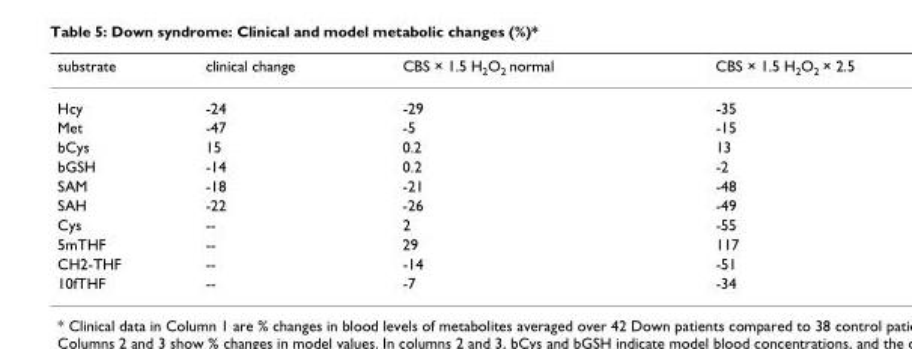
<table><thead><tr><td>substrate</td><td>clinical change</td><td>CBS × 1.5 H<sub>2</sub>O<sub>2</sub> normal</td><td>CBS × 1.5 H<sub>2</sub>O<sub>2</sub> × 2.5</td></tr></thead><tbody><tr><td>Hcy</td><td>-24</td><td>-29</td><td>-35</td></tr><tr><td>Met</td><td>-47</td><td>-5</td><td>-15</td></tr><tr><td>bCys</td><td>15</td><td>0.2</td><td>13</td></tr><tr><td>bGSH</td><td>-14</td><td>0.2</td><td>-2</td></tr><tr><td>SAM</td><td>-18</td><td>-21</td><td>-48</td></tr><tr><td>SAH</td><td>-22</td><td>-26</td><td>-49</td></tr><tr><td>Cys</td><td>--</td><td>2</td><td>-55</td></tr><tr><td>5mTHF</td><td>--</td><td>29</td><td>117</td></tr><tr><td>CH2-THF</td><td>--</td><td>-14</td><td>-51</td></tr><tr><td>10fTHF</td><td>--</td><td>-7</td><td>-34</td></tr></tbody></table>